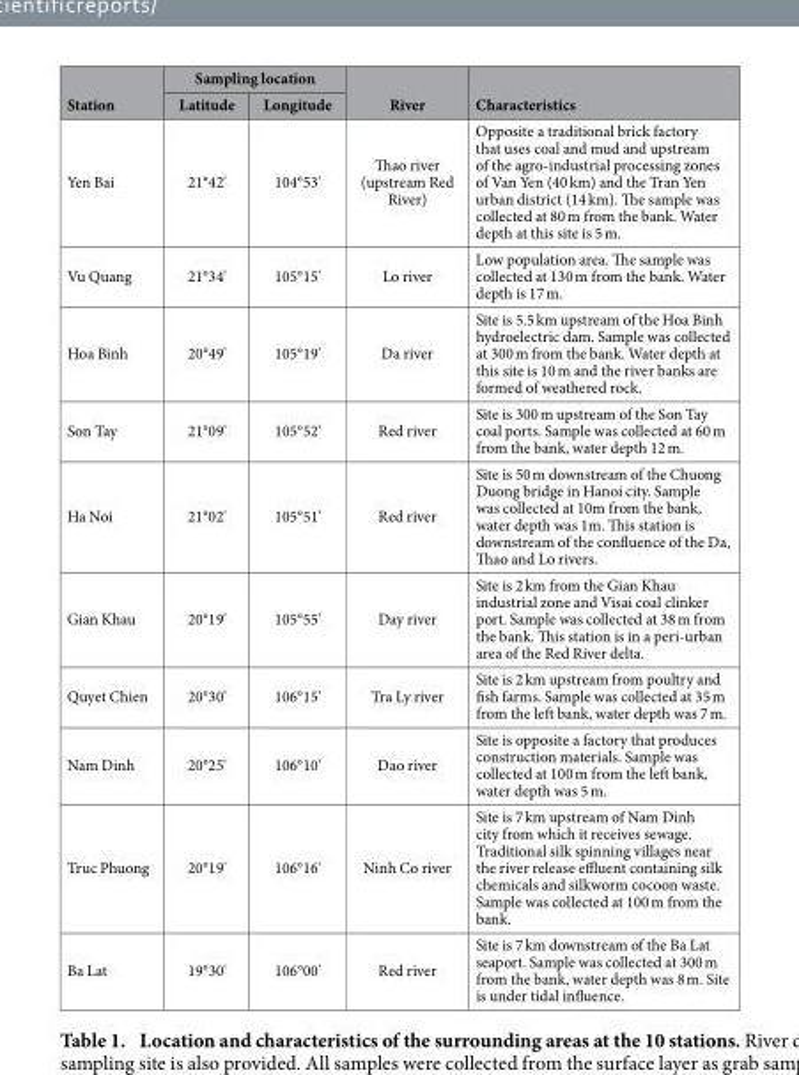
<table><thead><tr><td rowspan="2">Station</td><td colspan="2">Sampling location</td><td rowspan="2">River</td><td rowspan="2">Characteristics</td></tr><tr><td>Latitude</td><td>Longitude</td></tr></thead><tbody><tr><td>Yen Bai</td><td>21°42&#x27;</td><td>104°53&#x27;</td><td>Thao river (upstream Red River)</td><td>Opposite a traditional brick factory that uses coal and mud and upstream of the agro-industrial processing zones of Van Yen (40 km) and the Tran Yen urban district (14 km). The sample was collected at 80 m from the bank. Water depth at this site is 5 m.</td></tr><tr><td>Vu Quang</td><td>21°34&#x27;</td><td>105°15&#x27;</td><td>Lo river</td><td>Low population area. The sample was collected at 130 m from the bank. Water depth is 17 m.</td></tr><tr><td>Hoa Binh</td><td>20°49&#x27;</td><td>105°19&#x27;</td><td>Da river</td><td>Site is 5.5 km upstream of the Hoa Binh hydroelectric dam. Sample was collected at 300 m from the bank. Water depth at this site is 10 m and the river banks are formed of weathered rock.</td></tr><tr><td>Son Tay</td><td>21°09&#x27;</td><td>105°52&#x27;</td><td>Red river</td><td>Site is 300 m upstream of the Son Tay coal ports. Sample was collected at 60 m from the bank, water depth 12 m.</td></tr><tr><td>Ha Noi</td><td>21°02&#x27;</td><td>105°51&#x27;</td><td>Red river</td><td>Site is 50 m downstream of the Chuong Duong bridge in Hanoi city. Sample was collected at 10m from the bank, water depth was 1m. This station is downstream of the confluence of the Da, Thao and Lo rivers.</td></tr><tr><td>Gian Khau</td><td>20°19&#x27;</td><td>105°55&#x27;</td><td>Day river</td><td>Site is 2 km from the Gian Khau industrial zone and Visai coal clinker port. Sample was collected at 38 m from the bank. This station is in a peri-urban area of the Red River delta.</td></tr><tr><td>Quyet Chien</td><td>20°30&#x27;</td><td>106°15&#x27;</td><td>Tra Ly river</td><td>Site is 2 km upstream from poultry and fish farms. Sample was collected at 35 m from the left bank, water depth was 7 m.</td></tr><tr><td>Nam Dinh</td><td>20°25&#x27;</td><td>106°10&#x27;</td><td>Dao river</td><td>Site is opposite a factory that produces construction materials. Sample was collected at 100 m from the left bank, water depth was 5 m.</td></tr><tr><td>Truc Phuong</td><td>20°19&#x27;</td><td>106°16&#x27;</td><td>Ninh Co river</td><td>Site is 7 km upstream of Nam Dinh city from which it receives sewage. Traditional silk spinning villages near the river release effluent containing silk chemicals and silkworm cocoon waste. Sample was collected at 100 m from the bank.</td></tr><tr><td>Ba Lat</td><td>19°30&#x27;</td><td>106°00&#x27;</td><td>Red river</td><td>Site is 7 km downstream of the Ba Lat seaport. Sample was collected at 300 m from the bank, water depth was 8 m. Site is under tidal influence.</td></tr></tbody></table>